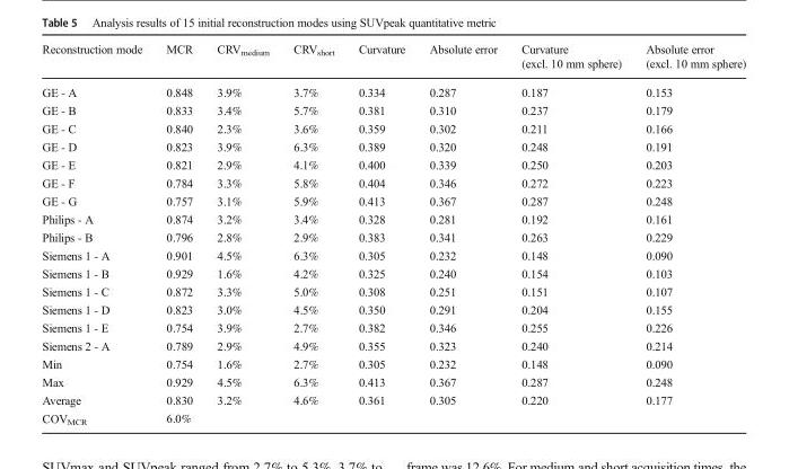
<table><thead><tr><td>Reconstruction mode</td><td>MCR</td><td>CRV<sub>medium</sub></td><td>CRV<sub>short</sub></td><td>Curvature</td><td>Absolute error</td><td>Curvature (excl. 10 mm sphere)</td><td>Absolute error (excl. 10 mm sphere)</td></tr></thead><tbody><tr><td>GE - A</td><td>0.848</td><td>3.9%</td><td>3.7%</td><td>0.334</td><td>0.287</td><td>0.187</td><td>0.153</td></tr><tr><td>GE - B</td><td>0.833</td><td>3.4%</td><td>5.7%</td><td>0.381</td><td>0.310</td><td>0.237</td><td>0.179</td></tr><tr><td>GE - C</td><td>0.840</td><td>2.3%</td><td>3.6%</td><td>0.359</td><td>0.302</td><td>0.211</td><td>0.166</td></tr><tr><td>GE - D</td><td>0.823</td><td>3.9%</td><td>6.3%</td><td>0.389</td><td>0.320</td><td>0.248</td><td>0.191</td></tr><tr><td>GE - E</td><td>0.821</td><td>2.9%</td><td>4.1%</td><td>0.400</td><td>0.339</td><td>0.250</td><td>0.203</td></tr><tr><td>GE - F</td><td>0.784</td><td>3.3%</td><td>5.8%</td><td>0.404</td><td>0.346</td><td>0.272</td><td>0.223</td></tr><tr><td>GE - G</td><td>0.757</td><td>3.1%</td><td>5.9%</td><td>0.413</td><td>0.367</td><td>0.287</td><td>0.248</td></tr><tr><td>Philips - A</td><td>0.874</td><td>3.2%</td><td>3.4%</td><td>0.328</td><td>0.281</td><td>0.192</td><td>0.161</td></tr><tr><td>Philips - B</td><td>0.796</td><td>2.8%</td><td>2.9%</td><td>0.383</td><td>0.341</td><td>0.263</td><td>0.229</td></tr><tr><td>Siemens 1 - A</td><td>0.901</td><td>4.5%</td><td>6.3%</td><td>0.305</td><td>0.232</td><td>0.148</td><td>0.090</td></tr><tr><td>Siemens 1 - B</td><td>0.929</td><td>1.6%</td><td>4.2%</td><td>0.325</td><td>0.240</td><td>0.154</td><td>0.103</td></tr><tr><td>Siemens 1 - C</td><td>0.872</td><td>3.3%</td><td>5.0%</td><td>0.308</td><td>0.251</td><td>0.151</td><td>0.107</td></tr><tr><td>Siemens 1 - D</td><td>0.823</td><td>3.0%</td><td>4.5%</td><td>0.350</td><td>0.291</td><td>0.204</td><td>0.155</td></tr><tr><td>Siemens 1 - E</td><td>0.754</td><td>3.9%</td><td>2.7%</td><td>0.382</td><td>0.346</td><td>0.255</td><td>0.226</td></tr><tr><td>Siemens 2 - A</td><td>0.789</td><td>2.9%</td><td>4.9%</td><td>0.355</td><td>0.323</td><td>0.240</td><td>0.214</td></tr><tr><td>Min</td><td>0.754</td><td>1.6%</td><td>2.7%</td><td>0.305</td><td>0.232</td><td>0.148</td><td>0.090</td></tr><tr><td>Max</td><td>0.929</td><td>4.5%</td><td>6.3%</td><td>0.413</td><td>0.367</td><td>0.287</td><td>0.248</td></tr><tr><td>Average</td><td>0.830</td><td>3.2%</td><td>4.6%</td><td>0.361</td><td>0.305</td><td>0.220</td><td>0.177</td></tr><tr><td>COV<sub>MCR</sub></td><td>6.0%</td><td></td><td></td><td></td><td></td><td></td><td></td></tr></tbody></table>